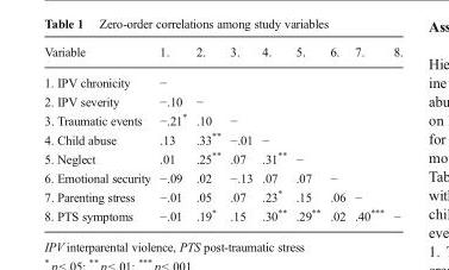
<table><thead><tr><td>Variable</td><td>1.</td><td>2.</td><td>3.</td><td>4.</td><td>5.</td><td>6.</td><td>7.</td><td>8.</td></tr></thead><tbody><tr><td>1. IPV chronicity</td><td>−</td><td></td><td></td><td></td><td></td><td></td><td></td><td></td></tr><tr><td>2. IPV severity</td><td>−.10</td><td>−</td><td></td><td></td><td></td><td></td><td></td><td></td></tr><tr><td>3. Traumatic events</td><td>−.21*</td><td>.10</td><td>−</td><td></td><td></td><td></td><td></td><td></td></tr><tr><td>4. Child abuse</td><td>.13</td><td>.33**</td><td>−.01</td><td>−</td><td></td><td></td><td></td><td></td></tr><tr><td>5. Neglect</td><td>.01</td><td>.25**</td><td>.07</td><td>.31**</td><td>−</td><td></td><td></td><td></td></tr><tr><td>6. Emotional security</td><td>−.09</td><td>.02</td><td>−.13</td><td>.07</td><td>.07</td><td>−</td><td></td><td></td></tr><tr><td>7. Parenting stress</td><td>−.01</td><td>.05</td><td>.07</td><td>.23*</td><td>.15</td><td>.06</td><td>−</td><td></td></tr><tr><td>8. PTS symptoms</td><td>−.01</td><td>.19*</td><td>.15</td><td>.30**</td><td>.29**</td><td>.02</td><td>.40***</td><td>−</td></tr></tbody></table>